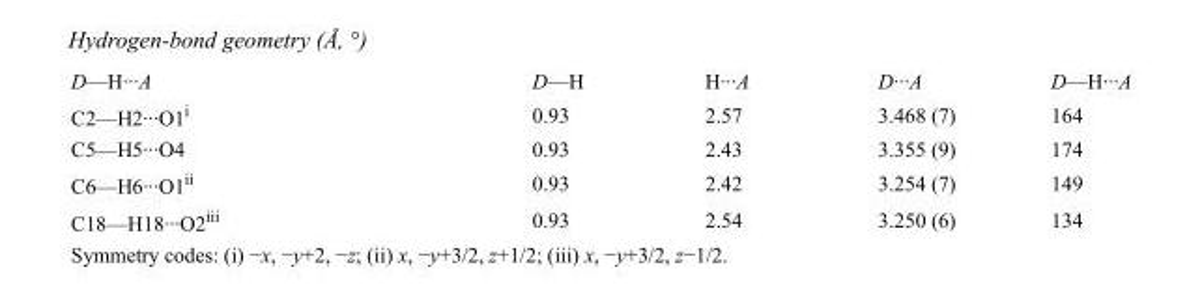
<table><tbody><tr><td>D—H···A</td><td>D—H</td><td>H···A</td><td>D···A</td><td>D—H···A</td></tr><tr><td>C2—H2···O1<sup>i</sup></td><td>0.93</td><td>2.57</td><td>3.468 (7)</td><td>164</td></tr><tr><td>C5—H5···O4</td><td>0.93</td><td>2.43</td><td>3.355 (9)</td><td>174</td></tr><tr><td>C6—H6···O1<sup>ii</sup></td><td>0.93</td><td>2.42</td><td>3.254 (7)</td><td>149</td></tr><tr><td>C18—H18···O2<sup>iii</sup></td><td>0.93</td><td>2.54</td><td>3.250 (6)</td><td>134</td></tr></tbody></table>